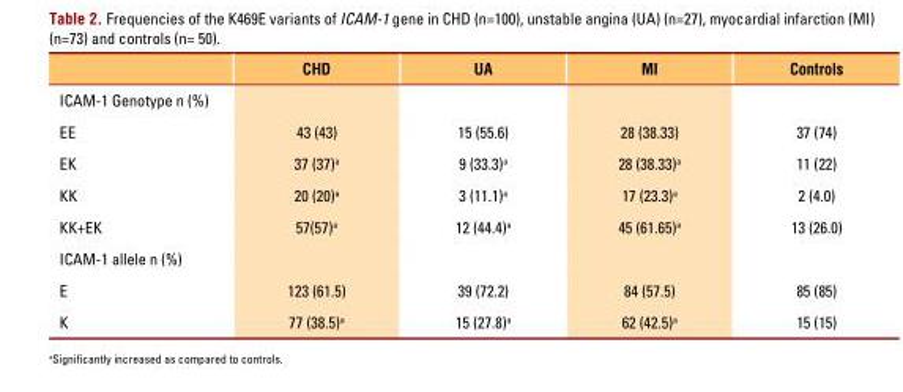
<table><thead><tr><td></td><td>CHD</td><td>UA</td><td>MI</td><td>Controls</td></tr></thead><tbody><tr><td colspan="5">ICAM-1 Genotype n (%)</td></tr><tr><td>EE</td><td>43 (43)</td><td>15 (55.6)</td><td>28 (38.33)</td><td>37 (74)</td></tr><tr><td>EK</td><td>37 (37)<sup>a</sup></td><td>9 (33.3)<sup>a</sup></td><td>28 (38.33)<sup>a</sup></td><td>11 (22)</td></tr><tr><td>KK</td><td>20 (20)<sup>a</sup></td><td>3 (11.1)<sup>a</sup></td><td>17 (23.3)<sup>a</sup></td><td>2 (4.0)</td></tr><tr><td>KK+EK</td><td>57(57)<sup>a</sup></td><td>12 (44.4)<sup>a</sup></td><td>45 (61.65)<sup>a</sup></td><td>13 (26.0)</td></tr><tr><td colspan="5">ICAM-1 allele n (%)</td></tr><tr><td>E</td><td>123 (61.5)</td><td>39 (72.2)</td><td>84 (57.5)</td><td>85 (85)</td></tr><tr><td>K</td><td>77 (38.5)<sup>a</sup></td><td>15 (27.8)<sup>a</sup></td><td>62 (42.5)<sup>a</sup></td><td>15 (15)</td></tr></tbody></table>